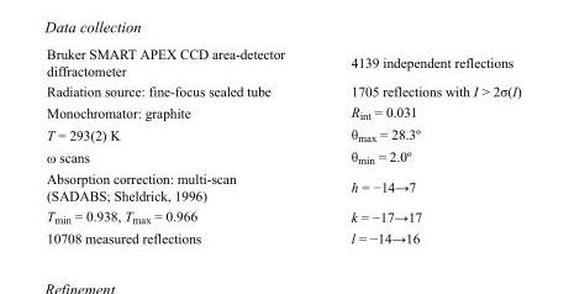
<table><tbody><tr><td>Bruker SMART APEX CCD area-detector diffractometer</td><td>4139 independent reflections</td></tr><tr><td>Radiation source: fine-focus sealed tube</td><td>1705 reflections with I &gt; 2σ(I)</td></tr><tr><td>Monochromator: graphite</td><td>R<sub>int</sub> = 0.031</td></tr><tr><td>T = 293(2) K</td><td>θ<sub>max</sub> = 28.3º</td></tr><tr><td>ω scans</td><td>θ<sub>min</sub> = 2.0º</td></tr><tr><td>Absorption correction: multi-scan (SADABS; Sheldrick, 1996)</td><td>h = −14→7</td></tr><tr><td>T<sub>min</sub> = 0.938, T<sub>max</sub> = 0.966</td><td>k = −17→17</td></tr><tr><td>10708 measured reflections</td><td>l = −14→16</td></tr></tbody></table>